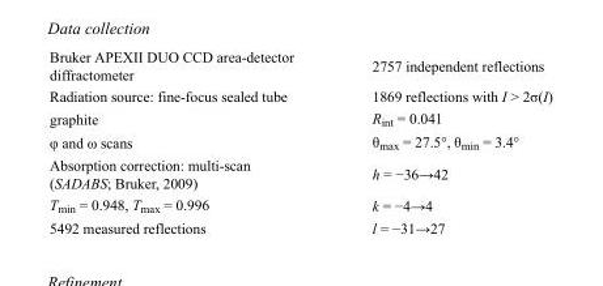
<table><tbody><tr><td>Bruker APEXII DUO CCD area-detector diffractometer</td><td>2757 independent reflections</td></tr><tr><td>Radiation source: fine-focus sealed tube</td><td>1869 reflections with I &gt; 2σ(I)</td></tr><tr><td>graphite</td><td>R<sub>int</sub> = 0.041</td></tr><tr><td>φ and ω scans</td><td>θ<sub>max</sub> = 27.5°, θ<sub>min</sub> = 3.4°</td></tr><tr><td>Absorption correction: multi-scan (SADABS; Bruker, 2009)</td><td>h = −36→42</td></tr><tr><td>T<sub>min</sub> = 0.948, T<sub>max</sub> = 0.996</td><td>k = −4→4</td></tr><tr><td>5492 measured reflections</td><td>l = −31→27</td></tr></tbody></table>